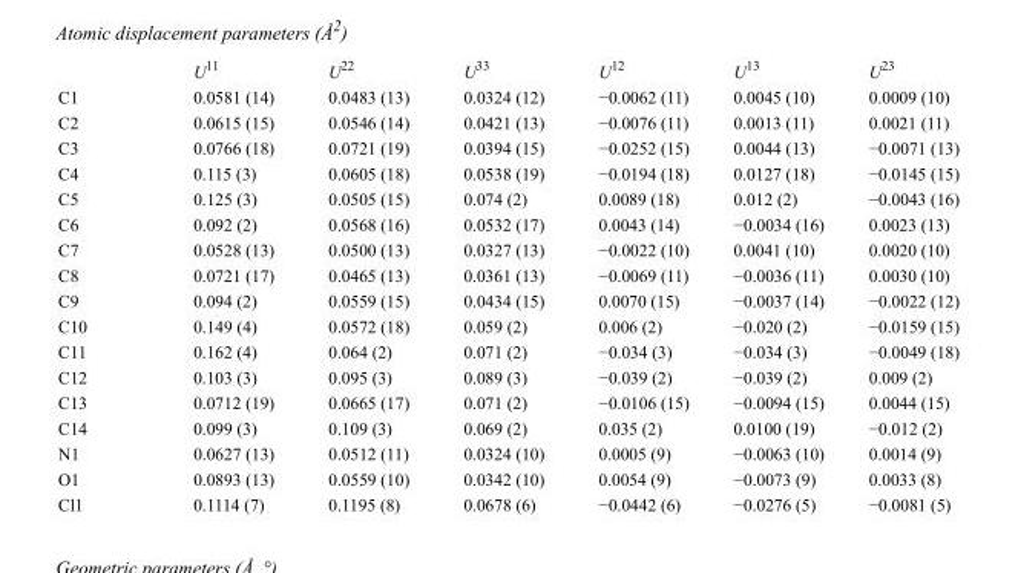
<table><thead><tr><td></td><td>U<sup>11</sup></td><td>U<sup>22</sup></td><td>U<sup>33</sup></td><td>U<sup>12</sup></td><td>U<sup>13</sup></td><td>U<sup>23</sup></td></tr></thead><tbody><tr><td>C1</td><td>0.0581 (14)</td><td>0.0483 (13)</td><td>0.0324 (12)</td><td>−0.0062 (11)</td><td>0.0045 (10)</td><td>0.0009 (10)</td></tr><tr><td>C2</td><td>0.0615 (15)</td><td>0.0546 (14)</td><td>0.0421 (13)</td><td>−0.0076 (11)</td><td>0.0013 (11)</td><td>0.0021 (11)</td></tr><tr><td>C3</td><td>0.0766 (18)</td><td>0.0721 (19)</td><td>0.0394 (15)</td><td>−0.0252 (15)</td><td>0.0044 (13)</td><td>−0.0071 (13)</td></tr><tr><td>C4</td><td>0.115 (3)</td><td>0.0605 (18)</td><td>0.0538 (19)</td><td>−0.0194 (18)</td><td>0.0127 (18)</td><td>−0.0145 (15)</td></tr><tr><td>C5</td><td>0.125 (3)</td><td>0.0505 (15)</td><td>0.074 (2)</td><td>0.0089 (18)</td><td>0.012 (2)</td><td>−0.0043 (16)</td></tr><tr><td>C6</td><td>0.092 (2)</td><td>0.0568 (16)</td><td>0.0532 (17)</td><td>0.0043 (14)</td><td>−0.0034 (16)</td><td>0.0023 (13)</td></tr><tr><td>C7</td><td>0.0528 (13)</td><td>0.0500 (13)</td><td>0.0327 (13)</td><td>−0.0022 (10)</td><td>0.0041 (10)</td><td>0.0020 (10)</td></tr><tr><td>C8</td><td>0.0721 (17)</td><td>0.0465 (13)</td><td>0.0361 (13)</td><td>−0.0069 (11)</td><td>−0.0036 (11)</td><td>0.0030 (10)</td></tr><tr><td>C9</td><td>0.094 (2)</td><td>0.0559 (15)</td><td>0.0434 (15)</td><td>0.0070 (15)</td><td>−0.0037 (14)</td><td>−0.0022 (12)</td></tr><tr><td>C10</td><td>0.149 (4)</td><td>0.0572 (18)</td><td>0.059 (2)</td><td>0.006 (2)</td><td>−0.020 (2)</td><td>−0.0159 (15)</td></tr><tr><td>C11</td><td>0.162 (4)</td><td>0.064 (2)</td><td>0.071 (2)</td><td>−0.034 (3)</td><td>−0.034 (3)</td><td>−0.0049 (18)</td></tr><tr><td>C12</td><td>0.103 (3)</td><td>0.095 (3)</td><td>0.089 (3)</td><td>−0.039 (2)</td><td>−0.039 (2)</td><td>0.009 (2)</td></tr><tr><td>C13</td><td>0.0712 (19)</td><td>0.0665 (17)</td><td>0.071 (2)</td><td>−0.0106 (15)</td><td>−0.0094 (15)</td><td>0.0044 (15)</td></tr><tr><td>C14</td><td>0.099 (3)</td><td>0.109 (3)</td><td>0.069 (2)</td><td>0.035 (2)</td><td>0.0100 (19)</td><td>−0.012 (2)</td></tr><tr><td>N1</td><td>0.0627 (13)</td><td>0.0512 (11)</td><td>0.0324 (10)</td><td>0.0005 (9)</td><td>−0.0063 (10)</td><td>0.0014 (9)</td></tr><tr><td>O1</td><td>0.0893 (13)</td><td>0.0559 (10)</td><td>0.0342 (10)</td><td>0.0054 (9)</td><td>−0.0073 (9)</td><td>0.0033 (8)</td></tr><tr><td>Cl1</td><td>0.1114 (7)</td><td>0.1195 (8)</td><td>0.0678 (6)</td><td>−0.0442 (6)</td><td>−0.0276 (5)</td><td>−0.0081 (5)</td></tr></tbody></table>